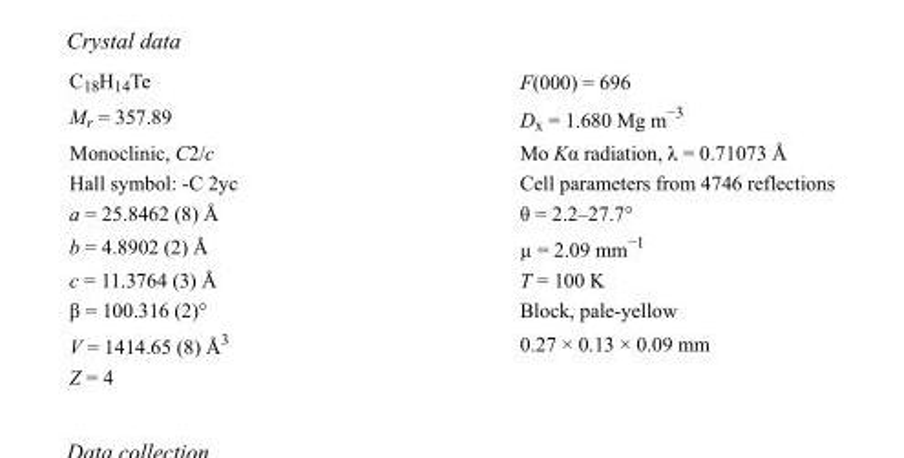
<table><tbody><tr><td>C<sub>18</sub>H<sub>14</sub>Te</td><td>F(000) = 696</td></tr><tr><td>M<sub>r</sub> = 357.89</td><td>D<sub>x</sub> = 1.680 Mg m<sup>−3</sup></td></tr><tr><td>Monoclinic, C2/c</td><td>Mo Kα radiation, λ = 0.71073 Å</td></tr><tr><td>Hall symbol: -C 2yc</td><td>Cell parameters from 4746 reflections</td></tr><tr><td>a = 25.8462 (8) Å</td><td>θ = 2.2–27.7°</td></tr><tr><td>b = 4.8902 (2) Å</td><td>µ = 2.09 mm<sup>−1</sup></td></tr><tr><td>c = 11.3764 (3) Å</td><td>T = 100 K</td></tr><tr><td>β = 100.316 (2)°</td><td>Block, pale-yellow</td></tr><tr><td>V = 1414.65 (8) Å<sup>3</sup></td><td>0.27 × 0.13 × 0.09 mm</td></tr><tr><td>Z = 4</td><td></td></tr></tbody></table>